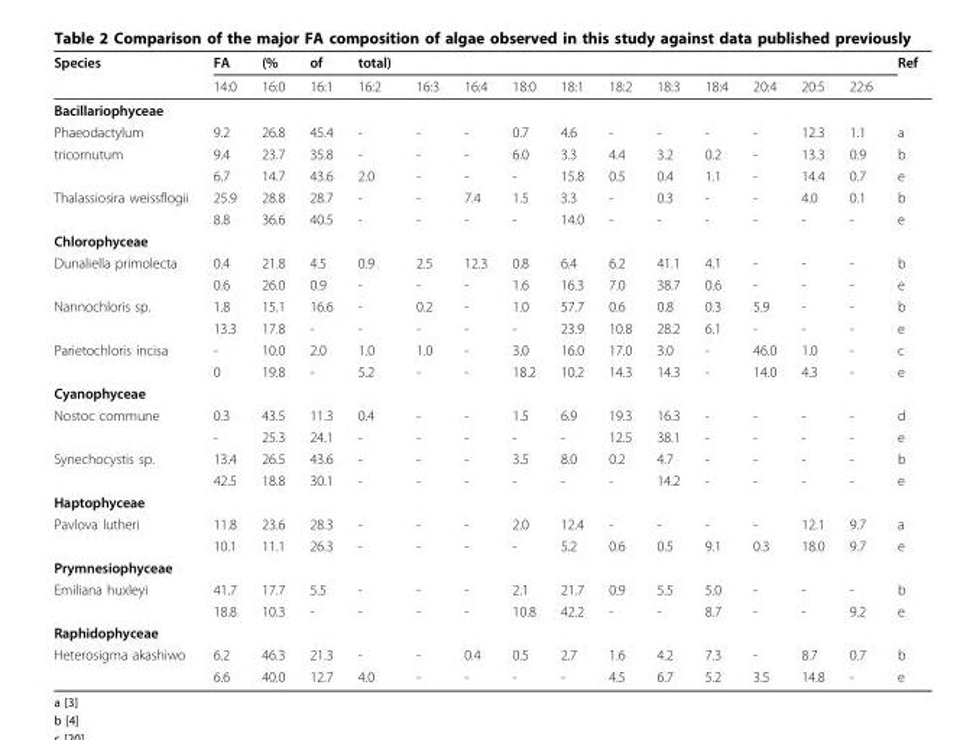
<table><thead><tr><td rowspan="2">Species</td><td rowspan="2">FA 14:0</td><td rowspan="2">(% 16:0</td><td rowspan="2">of 16:1</td><td rowspan="2">total) 16:2</td><td rowspan="2">16:3</td><td rowspan="2">16:4</td><td rowspan="2">18:0</td><td rowspan="2">18:1</td><td rowspan="2">18:2</td><td rowspan="2">18:3</td><td rowspan="2">18:4</td><td rowspan="2">20:4</td><td rowspan="2">20:5</td><td rowspan="2">22:6</td><td rowspan="2">Ref</td></tr><tr></tr></thead><tbody><tr><td colspan="16">Bacillariophyceae</td></tr><tr><td>Phaeodactylum</td><td>9.2</td><td>26.8</td><td>45.4</td><td>-</td><td>-</td><td>-</td><td>0.7</td><td>4.6</td><td>-</td><td>-</td><td>-</td><td>-</td><td>12.3</td><td>1.1</td><td>a</td></tr><tr><td rowspan="2">tricornutum</td><td>9.4</td><td>23.7</td><td>35.8</td><td>-</td><td>-</td><td>-</td><td>6.0</td><td>3.3</td><td>4.4</td><td>3.2</td><td>0.2</td><td>-</td><td>13.3</td><td>0.9</td><td>b</td></tr><tr><td>6.7</td><td>14.7</td><td>43.6</td><td>2.0</td><td>-</td><td>-</td><td>-</td><td>15.8</td><td>0.5</td><td>0.4</td><td>1.1</td><td>-</td><td>14.4</td><td>0.7</td><td>e</td></tr><tr><td rowspan="2">Thalassiosira weissflogii</td><td>25.9</td><td>28.8</td><td>28.7</td><td>-</td><td>-</td><td>7.4</td><td>1.5</td><td>3.3</td><td>-</td><td>0.3</td><td>-</td><td>-</td><td>4.0</td><td>0.1</td><td>b</td></tr><tr><td>8.8</td><td>36.6</td><td>40.5</td><td>-</td><td>-</td><td>-</td><td>-</td><td>14.0</td><td>-</td><td>-</td><td>-</td><td>-</td><td>-</td><td>-</td><td>e</td></tr><tr><td colspan="16">Chlorophyceae</td></tr><tr><td rowspan="2">Dunaliella primolecta</td><td>0.4</td><td>21.8</td><td>4.5</td><td>0.9</td><td>2.5</td><td>12.3</td><td>0.8</td><td>6.4</td><td>6.2</td><td>41.1</td><td>4.1</td><td>-</td><td>-</td><td>-</td><td>b</td></tr><tr><td>0.6</td><td>26.0</td><td>0.9</td><td>-</td><td>-</td><td>-</td><td>1.6</td><td>16.3</td><td>7.0</td><td>38.7</td><td>0.6</td><td>-</td><td>-</td><td>-</td><td>e</td></tr><tr><td rowspan="2">Nannochloris sp.</td><td>1.8</td><td>15.1</td><td>16.6</td><td>-</td><td>0.2</td><td>-</td><td>1.0</td><td>57.7</td><td>0.6</td><td>0.8</td><td>0.3</td><td>5.9</td><td>-</td><td>-</td><td>b</td></tr><tr><td>13.3</td><td>17.8</td><td>-</td><td>-</td><td>-</td><td>-</td><td>-</td><td>23.9</td><td>10.8</td><td>28.2</td><td>6.1</td><td>-</td><td>-</td><td>-</td><td>e</td></tr><tr><td rowspan="2">Parietochloris incisa</td><td>-</td><td>10.0</td><td>2.0</td><td>1.0</td><td>1.0</td><td>-</td><td>3.0</td><td>16.0</td><td>17.0</td><td>3.0</td><td>-</td><td>46.0</td><td>1.0</td><td>-</td><td>c</td></tr><tr><td>0</td><td>19.8</td><td>-</td><td>5.2</td><td>-</td><td>-</td><td>18.2</td><td>10.2</td><td>14.3</td><td>14.3</td><td>-</td><td>14.0</td><td>4.3</td><td>-</td><td>e</td></tr><tr><td colspan="16">Cyanophyceae</td></tr><tr><td rowspan="2">Nostoc commune</td><td>0.3</td><td>43.5</td><td>11.3</td><td>0.4</td><td>-</td><td>-</td><td>1.5</td><td>6.9</td><td>19.3</td><td>16.3</td><td>-</td><td>-</td><td>-</td><td>-</td><td>d</td></tr><tr><td>-</td><td>25.3</td><td>24.1</td><td>-</td><td>-</td><td>-</td><td>-</td><td>-</td><td>12.5</td><td>38.1</td><td>-</td><td>-</td><td>-</td><td>-</td><td>e</td></tr><tr><td rowspan="2">Synechocystis sp.</td><td>13.4</td><td>26.5</td><td>43.6</td><td>-</td><td>-</td><td>-</td><td>3.5</td><td>8.0</td><td>0.2</td><td>4.7</td><td>-</td><td>-</td><td>-</td><td>-</td><td>b</td></tr><tr><td>42.5</td><td>18.8</td><td>30.1</td><td>-</td><td>-</td><td>-</td><td>-</td><td>-</td><td>-</td><td>14.2</td><td>-</td><td>-</td><td>-</td><td>-</td><td>e</td></tr><tr><td colspan="16">Haptophyceae</td></tr><tr><td rowspan="2">Pavlova lutheri</td><td>11.8</td><td>23.6</td><td>28.3</td><td>-</td><td>-</td><td>-</td><td>2.0</td><td>12.4</td><td>-</td><td>-</td><td>-</td><td>-</td><td>12.1</td><td>9.7</td><td>a</td></tr><tr><td>10.1</td><td>11.1</td><td>26.3</td><td>-</td><td>-</td><td>-</td><td>-</td><td>5.2</td><td>0.6</td><td>0.5</td><td>9.1</td><td>0.3</td><td>18.0</td><td>9.7</td><td>e</td></tr><tr><td colspan="16">Prymnesiophyceae</td></tr><tr><td rowspan="2">Emiliana huxleyi</td><td>41.7</td><td>17.7</td><td>5.5</td><td>-</td><td>-</td><td>-</td><td>2.1</td><td>21.7</td><td>0.9</td><td>5.5</td><td>5.0</td><td>-</td><td>-</td><td>-</td><td>b</td></tr><tr><td>18.8</td><td>10.3</td><td>-</td><td>-</td><td>-</td><td>-</td><td>10.8</td><td>42.2</td><td>-</td><td>-</td><td>8.7</td><td>-</td><td>-</td><td>9.2</td><td>e</td></tr><tr><td colspan="16">Raphidophyceae</td></tr><tr><td rowspan="2">Heterosigma akashiwo</td><td>6.2</td><td>46.3</td><td>21.3</td><td>-</td><td>-</td><td>0.4</td><td>0.5</td><td>2.7</td><td>1.6</td><td>4.2</td><td>7.3</td><td>-</td><td>8.7</td><td>0.7</td><td>b</td></tr><tr><td>6.6</td><td>40.0</td><td>12.7</td><td>4.0</td><td>-</td><td>-</td><td>-</td><td>-</td><td>4.5</td><td>6.7</td><td>5.2</td><td>3.5</td><td>14.8</td><td>-</td><td>e</td></tr></tbody></table>